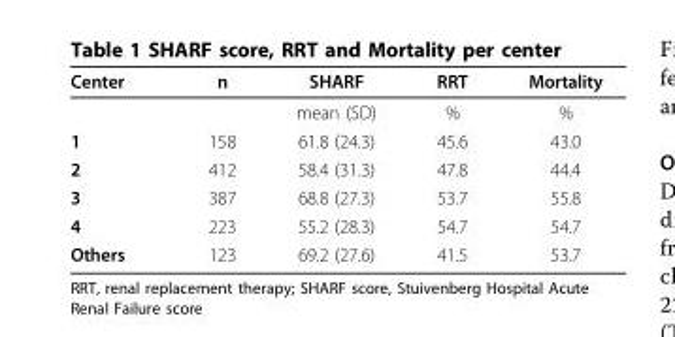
<table><thead><tr><td>Center</td><td>n</td><td>SHARF</td><td>RRT</td><td>Mortality</td></tr></thead><tbody><tr><td></td><td></td><td>mean (SD)</td><td>%</td><td>%</td></tr><tr><td>1</td><td>158</td><td>61.8 (24.3)</td><td>45.6</td><td>43.0</td></tr><tr><td>2</td><td>412</td><td>58.4 (31.3)</td><td>47.8</td><td>44.4</td></tr><tr><td>3</td><td>387</td><td>68.8 (27.3)</td><td>53.7</td><td>55.8</td></tr><tr><td>4</td><td>223</td><td>55.2 (28.3)</td><td>54.7</td><td>54.7</td></tr><tr><td>Others</td><td>123</td><td>69.2 (27.6)</td><td>41.5</td><td>53.7</td></tr></tbody></table>